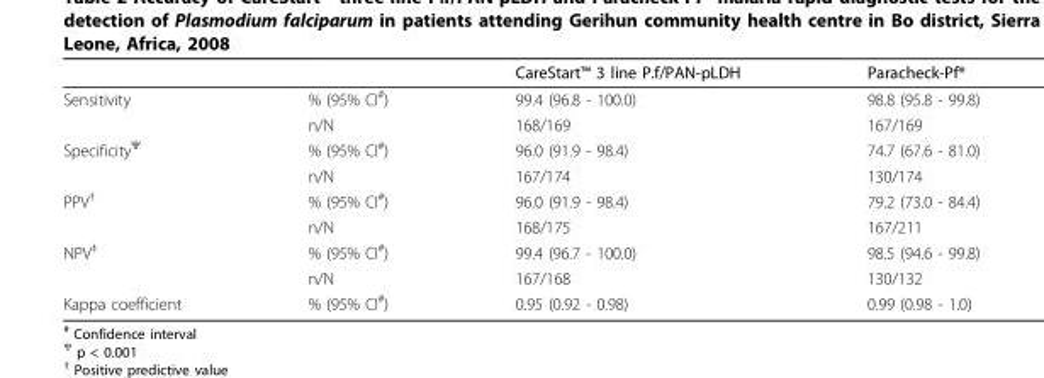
<table><thead><tr><td></td><td></td><td>CareStart™ 3 line P.f/PAN-pLDH</td><td>Paracheck-Pf<sup>®</sup></td></tr></thead><tbody><tr><td rowspan="2">Sensitivity</td><td>% (95% CI<sup>#</sup>)</td><td>99.4 (96.8 - 100.0)</td><td>98.8 (95.8 - 99.8)</td></tr><tr><td>n/N</td><td>168/169</td><td>167/169</td></tr><tr><td rowspan="2">Specificity<sup>Ψ</sup></td><td>% (95% CI<sup>#</sup>)</td><td>96.0 (91.9 - 98.4)</td><td>74.7 (67.6 - 81.0)</td></tr><tr><td>n/N</td><td>167/174</td><td>130/174</td></tr><tr><td rowspan="2">PPV<sup>†</sup></td><td>% (95% CI<sup>#</sup>)</td><td>96.0 (91.9 - 98.4)</td><td>79.2 (73.0 - 84.4)</td></tr><tr><td>n/N</td><td>168/175</td><td>167/211</td></tr><tr><td rowspan="2">NPV<sup>‡</sup></td><td>% (95% CI<sup>#</sup>)</td><td>99.4 (96.7 - 100.0)</td><td>98.5 (94.6 - 99.8)</td></tr><tr><td>n/N</td><td>167/168</td><td>130/132</td></tr><tr><td>Kappa coefficient</td><td>% (95% CI<sup>#</sup>)</td><td>0.95 (0.92 - 0.98)</td><td>0.99 (0.98 - 1.0)</td></tr></tbody></table>